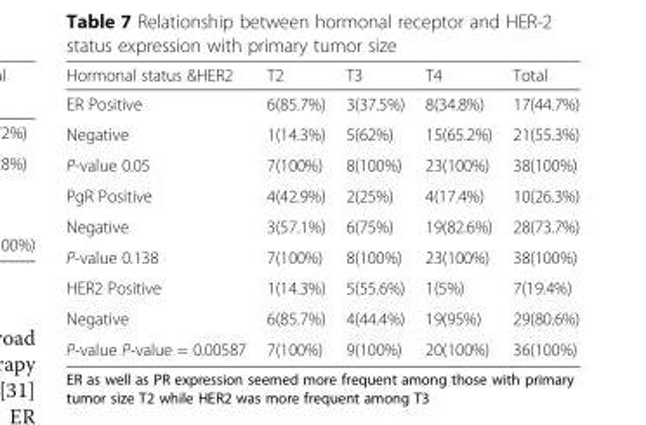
<table><thead><tr><td>Hormonal status &amp;HER2</td><td>T2</td><td>T3</td><td>T4</td><td>Total</td></tr></thead><tbody><tr><td>ER Positive</td><td>6(85.7%)</td><td>3(37.5%)</td><td>8(34.8%)</td><td>17(44.7%)</td></tr><tr><td>Negative</td><td>1(14.3%)</td><td>5(62%)</td><td>15(65.2%)</td><td>21(55.3%)</td></tr><tr><td>P-value 0.05</td><td>7(100%)</td><td>8(100%)</td><td>23(100%)</td><td>38(100%)</td></tr><tr><td>PgR Positive</td><td>4(42.9%)</td><td>2(25%)</td><td>4(17.4%)</td><td>10(26.3%)</td></tr><tr><td>Negative</td><td>3(57.1%)</td><td>6(75%)</td><td>19(82.6%)</td><td>28(73.7%)</td></tr><tr><td>P-value 0.138</td><td>7(100%)</td><td>8(100%)</td><td>23(100%)</td><td>38(100%)</td></tr><tr><td>HER2 Positive</td><td>1(14.3%)</td><td>5(55.6%)</td><td>1(5%)</td><td>7(19.4%)</td></tr><tr><td>Negative</td><td>6(85.7%)</td><td>4(44.4%)</td><td>19(95%)</td><td>29(80.6%)</td></tr><tr><td>P-value P-value = 0.00587</td><td>7(100%)</td><td>9(100%)</td><td>20(100%)</td><td>36(100%)</td></tr></tbody></table>